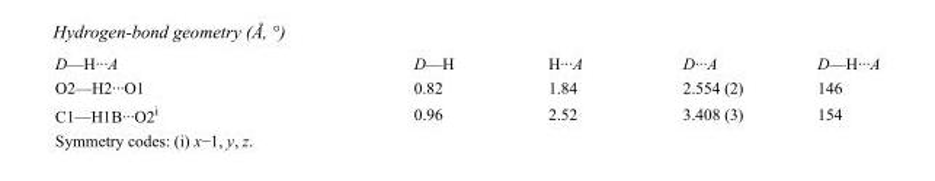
<table><tbody><tr><td>D—H···A</td><td>D—H</td><td>H···A</td><td>D···A</td><td>D—H···A</td></tr><tr><td>O2—H2···O1</td><td>0.82</td><td>1.84</td><td>2.554 (2)</td><td>146</td></tr><tr><td>C1—H1B···O2<sup>i</sup></td><td>0.96</td><td>2.52</td><td>3.408 (3)</td><td>154</td></tr></tbody></table>